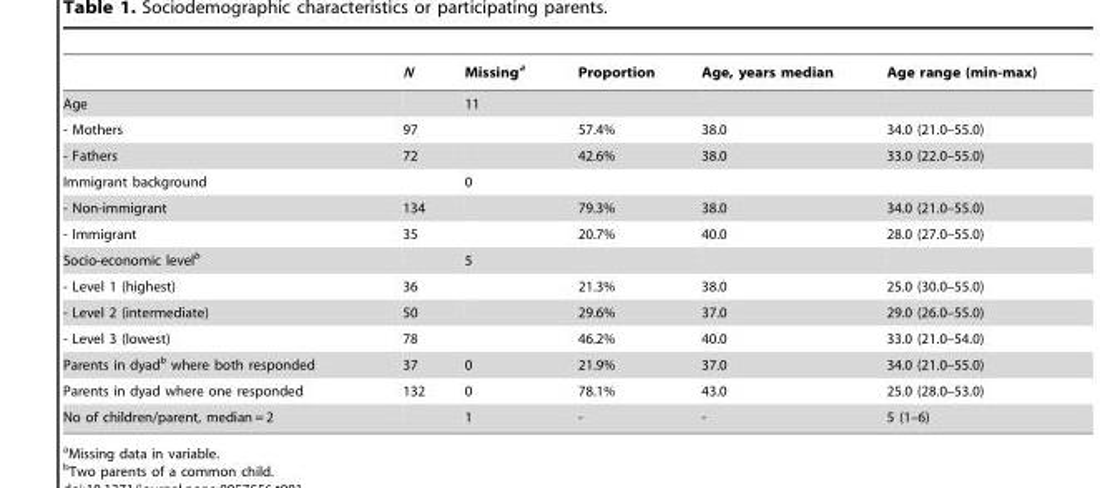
<table><thead><tr><td></td><td>N</td><td>Missing<sup>a</sup></td><td>Proportion</td><td>Age, years median</td><td>Age range (min-max)</td></tr></thead><tbody><tr><td>Age</td><td></td><td>11</td><td></td><td></td><td></td></tr><tr><td>- Mothers</td><td>97</td><td></td><td>57.4%</td><td>38.0</td><td>34.0 (21.0–55.0)</td></tr><tr><td>- Fathers</td><td>72</td><td></td><td>42.6%</td><td>38.0</td><td>33.0 (22.0–55.0)</td></tr><tr><td>Immigrant background</td><td></td><td>0</td><td></td><td></td><td></td></tr><tr><td>- Non-immigrant</td><td>134</td><td></td><td>79.3%</td><td>38.0</td><td>34.0 (21.0–55.0)</td></tr><tr><td>- Immigrant</td><td>35</td><td></td><td>20.7%</td><td>40.0</td><td>28.0 (27.0–55.0)</td></tr><tr><td>Socio-economic level<sup>b</sup></td><td></td><td>5</td><td></td><td></td><td></td></tr><tr><td>- Level 1 (highest)</td><td>36</td><td></td><td>21.3%</td><td>38.0</td><td>25.0 (30.0–55.0)</td></tr><tr><td>- Level 2 (intermediate)</td><td>50</td><td></td><td>29.6%</td><td>37.0</td><td>29.0 (26.0–55.0)</td></tr><tr><td>- Level 3 (lowest)</td><td>78</td><td></td><td>46.2%</td><td>40.0</td><td>33.0 (21.0–54.0)</td></tr><tr><td>Parents in dyad<sup>b</sup> where both responded</td><td>37</td><td>0</td><td>21.9%</td><td>37.0</td><td>34.0 (21.0–55.0)</td></tr><tr><td>Parents in dyad where one responded</td><td>132</td><td>0</td><td>78.1%</td><td>43.0</td><td>25.0 (28.0–53.0)</td></tr><tr><td>No of children/parent, median = 2</td><td></td><td>1</td><td>-</td><td>-</td><td>5 (1–6)</td></tr></tbody></table>